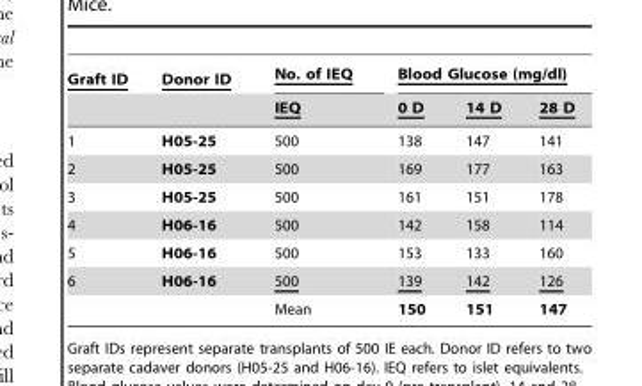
<table><thead><tr><td rowspan="2">Graft ID</td><td rowspan="2">Donor ID</td><td rowspan="2">No. of IEQ IEQ</td><td colspan="3">Blood Glucose (mg/dl)</td></tr><tr><td>0 D</td><td>14 D</td><td>28 D</td></tr></thead><tbody><tr><td>1</td><td>H05-25</td><td>500</td><td>138</td><td>147</td><td>141</td></tr><tr><td>2</td><td>H05-25</td><td>500</td><td>169</td><td>177</td><td>163</td></tr><tr><td>3</td><td>H05-25</td><td>500</td><td>161</td><td>151</td><td>178</td></tr><tr><td>4</td><td>H06-16</td><td>500</td><td>142</td><td>158</td><td>114</td></tr><tr><td>5</td><td>H06-16</td><td>500</td><td>153</td><td>133</td><td>160</td></tr><tr><td rowspan="2">6</td><td>H06-16</td><td>500</td><td>139</td><td>142</td><td>126</td></tr><tr><td></td><td>Mean</td><td>150</td><td>151</td><td>147</td></tr></tbody></table>